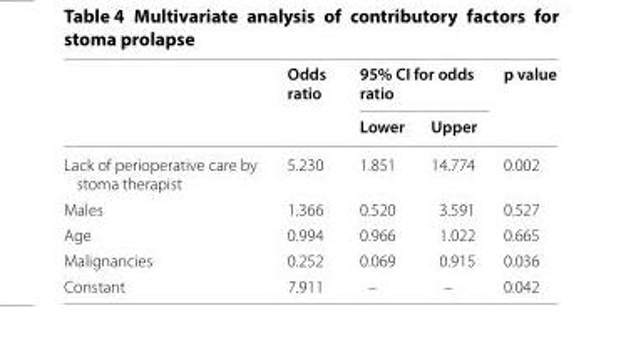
<table><thead><tr><td rowspan="2"></td><td rowspan="2">Odds ratio</td><td colspan="2">95% CI for odds ratio</td><td rowspan="2">p value</td></tr><tr><td>Lower</td><td>Upper</td></tr></thead><tbody><tr><td>Lack of perioperative care by stoma therapist</td><td>5.230</td><td>1.851</td><td>14.774</td><td>0.002</td></tr><tr><td>Males</td><td>1.366</td><td>0.520</td><td>3.591</td><td>0.527</td></tr><tr><td>Age</td><td>0.994</td><td>0.966</td><td>1.022</td><td>0.665</td></tr><tr><td>Malignancies</td><td>0.252</td><td>0.069</td><td>0.915</td><td>0.036</td></tr><tr><td>Constant</td><td>7.911</td><td>–</td><td>–</td><td>0.042</td></tr></tbody></table>